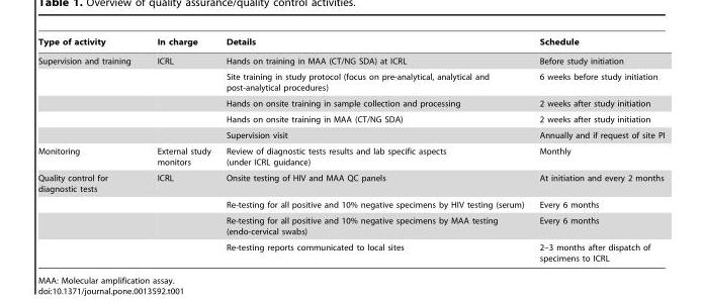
<table><thead><tr><td>Type of activity</td><td>In charge</td><td>Details</td><td>Schedule</td></tr></thead><tbody><tr><td rowspan="5">Supervision and training</td><td>ICRL</td><td>Hands on training in MAA (CT/NG SDA) at ICRL</td><td>Before study initiation</td></tr><tr><td></td><td>Site training in study protocol (focus on pre-analytical, analytical and post-analytical procedures)</td><td>6 weeks before study initiation</td></tr><tr><td></td><td>Hands on onsite training in sample collection and processing</td><td>2 weeks after study initiation</td></tr><tr><td></td><td>Hands on onsite training in MAA (CT/NG SDA)</td><td>2 weeks after study initiation</td></tr><tr><td></td><td>Supervision visit</td><td>Annually and if request of site PI</td></tr><tr><td>Monitoring</td><td>External study monitors</td><td>Review of diagnostic tests results and lab specific aspects (under ICRL guidance)</td><td>Monthly</td></tr><tr><td rowspan="4">Quality control for diagnostic tests</td><td>ICRL</td><td>Onsite testing of HIV and MAA QC panels</td><td>At initiation and every 2 months</td></tr><tr><td></td><td>Re-testing for all positive and 10% negative specimens by HIV testing (serum)</td><td>Every 6 months</td></tr><tr><td></td><td>Re-testing for all positive and 10% negative specimens by MAA testing (endo-cervical swabs)</td><td>Every 6 months</td></tr><tr><td></td><td>Re-testing reports communicated to local sites</td><td>2–3 months after dispatch of specimens to ICRL</td></tr></tbody></table>